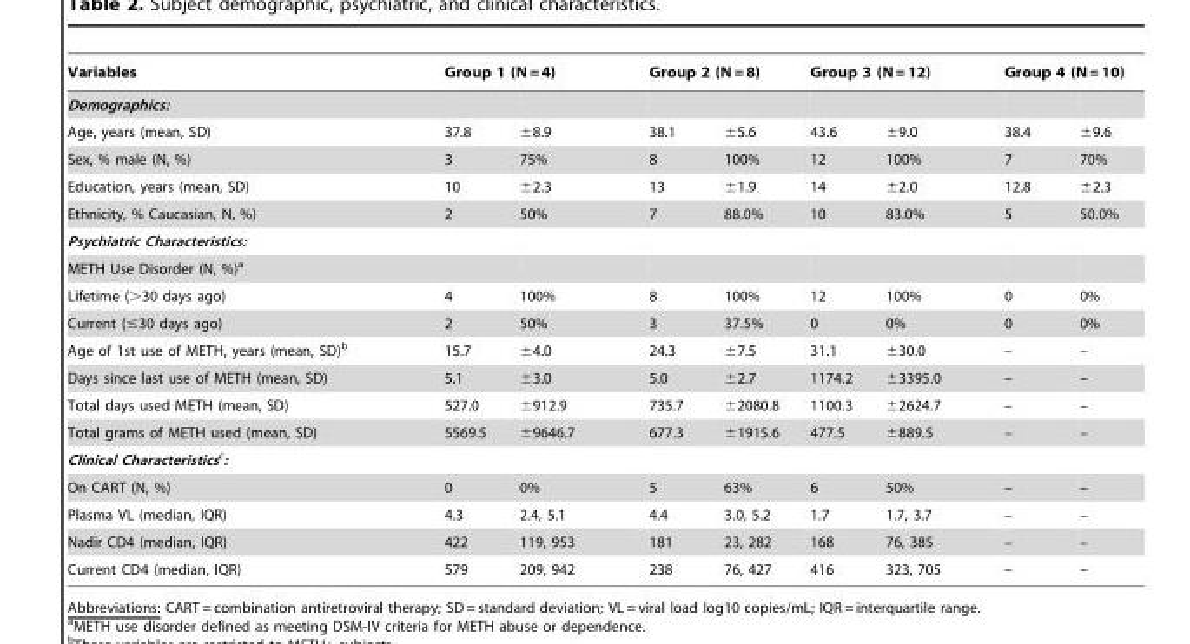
<table><thead><tr><td rowspan="2">Variables Demographics:</td><td colspan="2">Group 1 (N = 4)</td><td colspan="2">Group 2 (N = 8)</td><td colspan="2">Group 3 (N = 12)</td><td colspan="2">Group 4 (N = 10)</td></tr><tr><td></td><td></td><td></td><td></td><td></td><td></td><td></td><td></td></tr></thead><tbody><tr><td>Age, years (mean, SD)</td><td>37.8</td><td>±8.9</td><td>38.1</td><td>±5.6</td><td>43.6</td><td>±9.0</td><td>38.4</td><td>±9.6</td></tr><tr><td>Sex, % male (N, %)</td><td>3</td><td>75%</td><td>8</td><td>100%</td><td>12</td><td>100%</td><td>7</td><td>70%</td></tr><tr><td>Education, years (mean, SD)</td><td>10</td><td>±2.3</td><td>13</td><td>±1.9</td><td>14</td><td>±2.0</td><td>12.8</td><td>±2.3</td></tr><tr><td>Ethnicity, % Caucasian, N, %)</td><td>2</td><td>50%</td><td>7</td><td>88.0%</td><td>10</td><td>83.0%</td><td>5</td><td>50.0%</td></tr><tr><td colspan="9">Psychiatric Characteristics:</td></tr><tr><td colspan="9">METH Use Disorder (N, %)<sup>a</sup></td></tr><tr><td>Lifetime (&gt;30 days ago)</td><td>4</td><td>100%</td><td>8</td><td>100%</td><td>12</td><td>100%</td><td>0</td><td>0%</td></tr><tr><td>Current (≤30 days ago)</td><td>2</td><td>50%</td><td>3</td><td>37.5%</td><td>0</td><td>0%</td><td>0</td><td>0%</td></tr><tr><td>Age of 1st use of METH, years (mean, SD)<sup>b</sup></td><td>15.7</td><td>±4.0</td><td>24.3</td><td>±7.5</td><td>31.1</td><td>±30.0</td><td>–</td><td>–</td></tr><tr><td>Days since last use of METH (mean, SD)</td><td>5.1</td><td>±3.0</td><td>5.0</td><td>±2.7</td><td>1174.2</td><td>±3395.0</td><td>–</td><td>–</td></tr><tr><td>Total days used METH (mean, SD)</td><td>527.0</td><td>±912.9</td><td>735.7</td><td>±2080.8</td><td>1100.3</td><td>±2624.7</td><td>–</td><td>–</td></tr><tr><td>Total grams of METH used (mean, SD)</td><td>5569.5</td><td>±9646.7</td><td>677.3</td><td>±1915.6</td><td>477.5</td><td>±889.5</td><td>–</td><td>–</td></tr><tr><td colspan="9">Clinical Characteristicsc:</td></tr><tr><td>On CART (N, %)</td><td>0</td><td>0%</td><td>5</td><td>63%</td><td>6</td><td>50%</td><td>–</td><td>–</td></tr><tr><td>Plasma VL (median, IQR)</td><td>4.3</td><td>2.4, 5.1</td><td>4.4</td><td>3.0, 5.2</td><td>1.7</td><td>1.7, 3.7</td><td>–</td><td>–</td></tr><tr><td>Nadir CD4 (median, IQR)</td><td>422</td><td>119, 953</td><td>181</td><td>23, 282</td><td>168</td><td>76, 385</td><td>–</td><td>–</td></tr><tr><td>Current CD4 (median, IQR)</td><td>579</td><td>209, 942</td><td>238</td><td>76, 427</td><td>416</td><td>323, 705</td><td>–</td><td>–</td></tr></tbody></table>